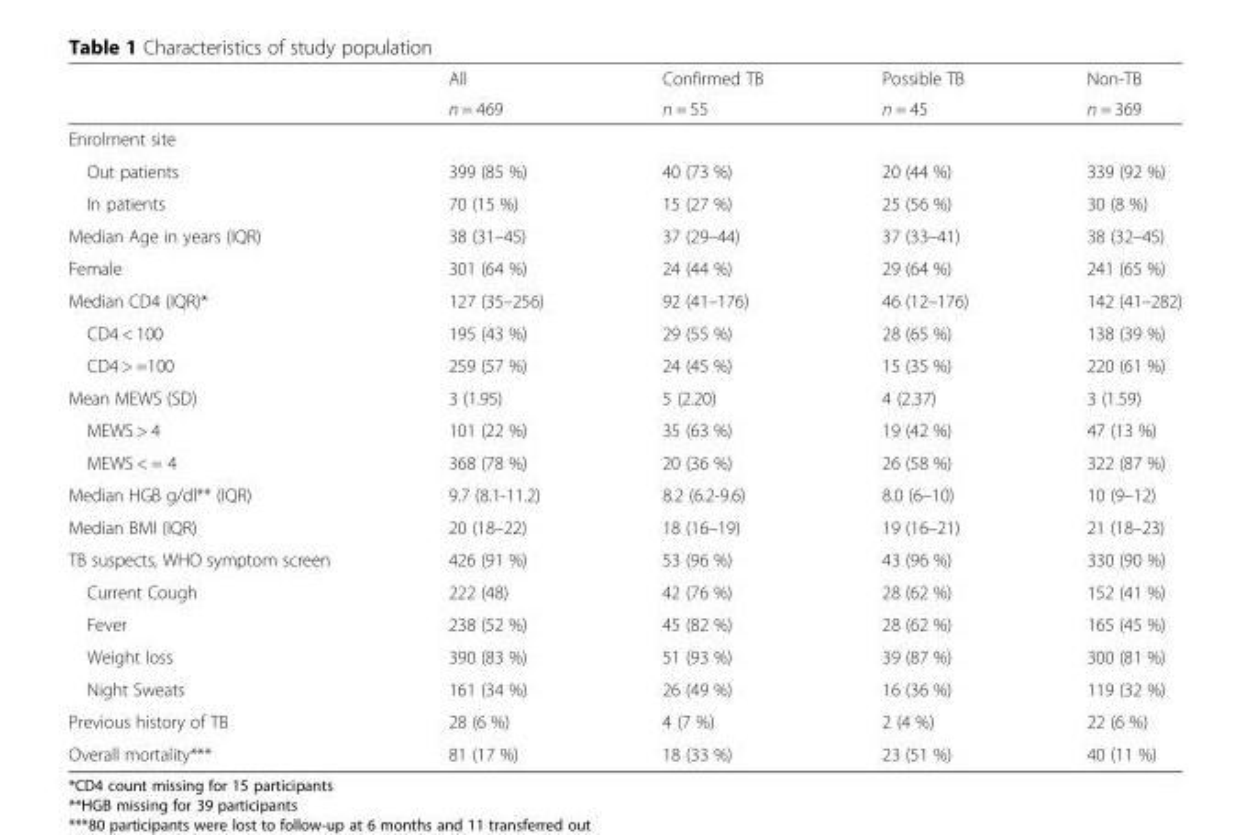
<table><thead><tr><td rowspan="2"></td><td rowspan="2">All n = 469</td><td rowspan="2">Confirmed TB n = 55</td><td rowspan="2">Possible TB n = 45</td><td rowspan="2">Non-TB n = 369</td></tr><tr></tr></thead><tbody><tr><td colspan="5">Enrolment site</td></tr><tr><td>Out patients</td><td>399 (85 %)</td><td>40 (73 %)</td><td>20 (44 %)</td><td>339 (92 %)</td></tr><tr><td>In patients</td><td>70 (15 %)</td><td>15 (27 %)</td><td>25 (56 %)</td><td>30 (8 %)</td></tr><tr><td>Median Age in years (IQR)</td><td>38 (31–45)</td><td>37 (29–44)</td><td>37 (33–41)</td><td>38 (32–45)</td></tr><tr><td>Female</td><td>301 (64 %)</td><td>24 (44 %)</td><td>29 (64 %)</td><td>241 (65 %)</td></tr><tr><td>Median CD4 (IQR)*</td><td>127 (35–256)</td><td>92 (41–176)</td><td>46 (12–176)</td><td>142 (41–282)</td></tr><tr><td>CD4 &lt; 100</td><td>195 (43 %)</td><td>29 (55 %)</td><td>28 (65 %)</td><td>138 (39 %)</td></tr><tr><td>CD4 &gt; =100</td><td>259 (57 %)</td><td>24 (45 %)</td><td>15 (35 %)</td><td>220 (61 %)</td></tr><tr><td>Mean MEWS (SD)</td><td>3 (1.95)</td><td>5 (2.20)</td><td>4 (2.37)</td><td>3 (1.59)</td></tr><tr><td>MEWS &gt; 4</td><td>101 (22 %)</td><td>35 (63 %)</td><td>19 (42 %)</td><td>47 (13 %)</td></tr><tr><td>MEWS &lt; = 4</td><td>368 (78 %)</td><td>20 (36 %)</td><td>26 (58 %)</td><td>322 (87 %)</td></tr><tr><td>Median HGB g/dl** (IQR)</td><td>9.7 (8.1-11.2)</td><td>8.2 (6.2-9.6)</td><td>8.0 (6–10)</td><td>10 (9–12)</td></tr><tr><td>Median BMI (IQR)</td><td>20 (18–22)</td><td>18 (16–19)</td><td>19 (16–21)</td><td>21 (18–23)</td></tr><tr><td>TB suspects, WHO symptom screen</td><td>426 (91 %)</td><td>53 (96 %)</td><td>43 (96 %)</td><td>330 (90 %)</td></tr><tr><td>Current Cough</td><td>222 (48)</td><td>42 (76 %)</td><td>28 (62 %)</td><td>152 (41 %)</td></tr><tr><td>Fever</td><td>238 (52 %)</td><td>45 (82 %)</td><td>28 (62 %)</td><td>165 (45 %)</td></tr><tr><td>Weight loss</td><td>390 (83 %)</td><td>51 (93 %)</td><td>39 (87 %)</td><td>300 (81 %)</td></tr><tr><td>Night Sweats</td><td>161 (34 %)</td><td>26 (49 %)</td><td>16 (36 %)</td><td>119 (32 %)</td></tr><tr><td>Previous history of TB</td><td>28 (6 %)</td><td>4 (7 %)</td><td>2 (4 %)</td><td>22 (6 %)</td></tr><tr><td>Overall mortality***</td><td>81 (17 %)</td><td>18 (33 %)</td><td>23 (51 %)</td><td>40 (11 %)</td></tr></tbody></table>